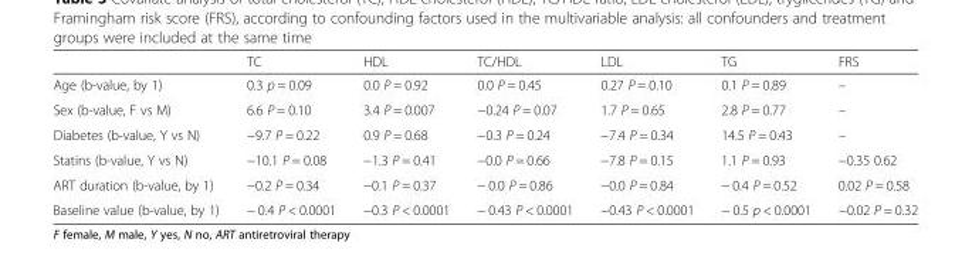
<table><thead><tr><td></td><td>TC</td><td>HDL</td><td>TC/HDL</td><td>LDL</td><td>TG</td><td>FRS</td></tr></thead><tbody><tr><td>Age (b-value, by 1)</td><td>0.3 p = 0.09</td><td>0.0 P = 0.92</td><td>0.0 P = 0.45</td><td>0.27 P = 0.10</td><td>0.1 P = 0.89</td><td>–</td></tr><tr><td>Sex (b-value, F vs M)</td><td>6.6 P = 0.10</td><td>3.4 P = 0.007</td><td>−0.24 P = 0.07</td><td>1.7 P = 0.65</td><td>2.8 P = 0.77</td><td>–</td></tr><tr><td>Diabetes (b-value, Y vs N)</td><td>−9.7 P = 0.22</td><td>0.9 P = 0.68</td><td>−0.3 P = 0.24</td><td>−7.4 P = 0.34</td><td>14.5 P = 0.43</td><td>–</td></tr><tr><td>Statins (b-value, Y vs N)</td><td>−10.1 P = 0.08</td><td>−1.3 P = 0.41</td><td>−0.0 P = 0.66</td><td>−7.8 P = 0.15</td><td>1.1 P = 0.93</td><td>−0.35 0.62</td></tr><tr><td>ART duration (b-value, by 1)</td><td>−0.2 P = 0.34</td><td>−0.1 P = 0.37</td><td>− 0.0 P = 0.86</td><td>−0.0 P = 0.84</td><td>− 0.4 P = 0.52</td><td>0.02 P = 0.58</td></tr><tr><td>Baseline value (b-value, by 1)</td><td>− 0.4 P &lt; 0.0001</td><td>−0.3 P &lt; 0.0001</td><td>− 0.43 P &lt; 0.0001</td><td>−0.43 P &lt; 0.0001</td><td>− 0.5 p &lt; 0.0001</td><td>−0.02 P = 0.32</td></tr></tbody></table>